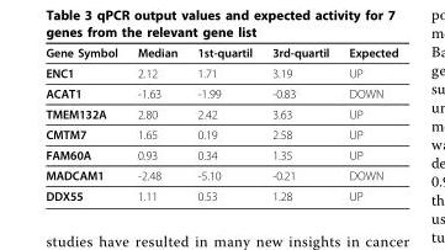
<table><thead><tr><td>Gene Symbol</td><td>Median</td><td>1st-quartil</td><td>3rd-quartil</td><td>Expected</td></tr></thead><tbody><tr><td>ENC1</td><td>2.12</td><td>1.71</td><td>3.19</td><td>UP</td></tr><tr><td>ACAT1</td><td>-1.63</td><td>-1.99</td><td>-0.83</td><td>DOWN</td></tr><tr><td>TMEM132A</td><td>2.80</td><td>2.42</td><td>3.63</td><td>UP</td></tr><tr><td>CMTM7</td><td>1.65</td><td>0.19</td><td>2.58</td><td>UP</td></tr><tr><td>FAM60A</td><td>0.93</td><td>0.34</td><td>1.35</td><td>UP</td></tr><tr><td>MADCAM1</td><td>-2.48</td><td>-5.10</td><td>-0.21</td><td>DOWN</td></tr><tr><td>DDX55</td><td>1.11</td><td>0.53</td><td>1.28</td><td>UP</td></tr></tbody></table>